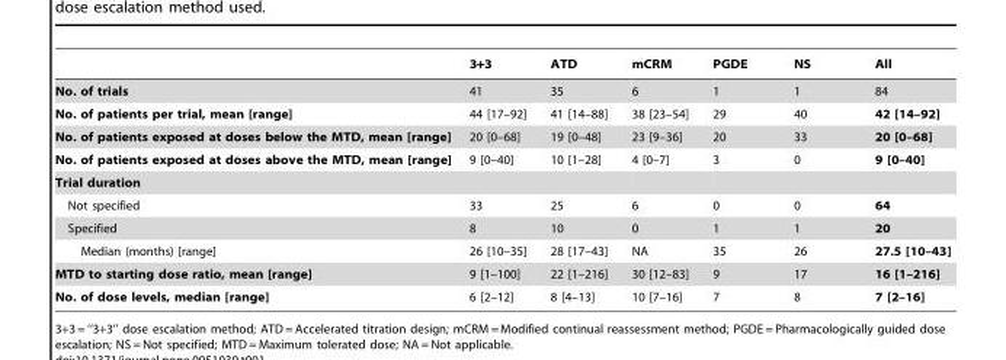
<table><thead><tr><td></td><td>3+3</td><td>ATD</td><td>mCRM</td><td>PGDE</td><td>NS</td><td>All</td></tr></thead><tbody><tr><td>No. of trials</td><td>41</td><td>35</td><td>6</td><td>1</td><td>1</td><td>84</td></tr><tr><td>No. of patients per trial, mean [range]</td><td>44 [17–92]</td><td>41 [14–88]</td><td>38 [23–54]</td><td>29</td><td>40</td><td>42 [14–92]</td></tr><tr><td>No. of patients exposed at doses below the MTD, mean [range]</td><td>20 [0–68]</td><td>19 [0–48]</td><td>23 [9–36]</td><td>20</td><td>33</td><td>20 [0–68]</td></tr><tr><td>No. of patients exposed at doses above the MTD, mean [range]</td><td>9 [0–40]</td><td>10 [1–28]</td><td>4 [0–7]</td><td>3</td><td>0</td><td>9 [0–40]</td></tr><tr><td colspan="7">Trial duration</td></tr><tr><td>Not specified</td><td>33</td><td>25</td><td>6</td><td>0</td><td>0</td><td>64</td></tr><tr><td>Specified</td><td>8</td><td>10</td><td>0</td><td>1</td><td>1</td><td>20</td></tr><tr><td>Median (months) [range]</td><td>26 [10–35]</td><td>28 [17–43]</td><td>NA</td><td>35</td><td>26</td><td>27.5 [10–43]</td></tr><tr><td>MTD to starting dose ratio, mean [range]</td><td>9 [1–100]</td><td>22 [1–216]</td><td>30 [12–83]</td><td>9</td><td>17</td><td>16 [1–216]</td></tr><tr><td>No. of dose levels, median [range]</td><td>6 [2–12]</td><td>8 [4–13]</td><td>10 [7–16]</td><td>7</td><td>8</td><td>7 [2–16]</td></tr></tbody></table>